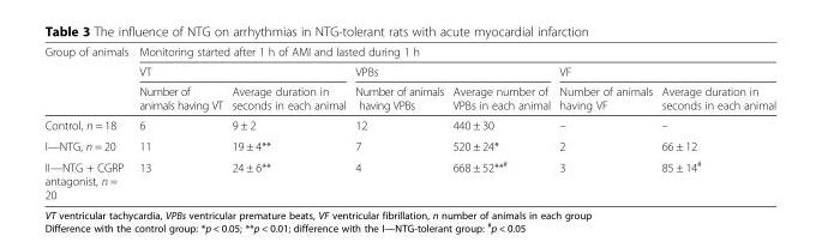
<table><thead><tr><td rowspan="3">Group of animals</td><td colspan="6">Monitoring started after 1 h of AMI and lasted during 1 h</td></tr><tr><td colspan="2">VT</td><td colspan="2">VPBs</td><td colspan="2">VF</td></tr><tr><td>Number of animals having VT</td><td>Average duration in seconds in each animal</td><td>Number of animals having VPBs</td><td>Average number of VPBs in each animal</td><td>Number of animals having VF</td><td>Average duration in seconds in each animal</td></tr></thead><tbody><tr><td>Control, n = 18</td><td>6</td><td>9 ± 2</td><td>12</td><td>440 ± 30</td><td>–</td><td>–</td></tr><tr><td>I—NTG, n = 20</td><td>11</td><td>19 ± 4**</td><td>7</td><td>520 ± 24*</td><td>2</td><td>66 ± 12</td></tr><tr><td>II—NTG + CGRP antagonist, n = 20</td><td>13</td><td>24 ± 6**</td><td>4</td><td>668 ± 52**<sup>#</sup></td><td>3</td><td>85 ± 14<sup>#</sup></td></tr></tbody></table>